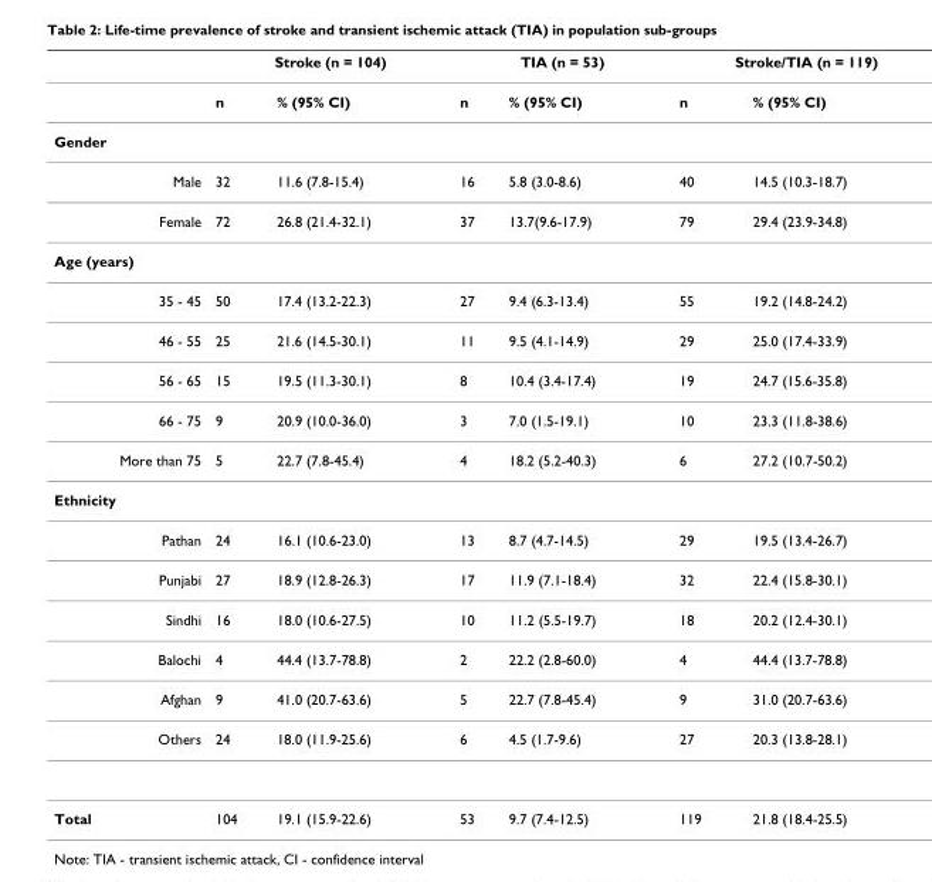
<table><thead><tr><td rowspan="2"></td><td colspan="2">Stroke (n = 104)</td><td colspan="2">TIA (n = 53)</td><td colspan="2">Stroke/TIA (n = 119)</td></tr><tr><td>n</td><td>% (95% CI)</td><td>n</td><td>% (95% CI)</td><td>n</td><td>% (95% CI)</td></tr></thead><tbody><tr><td colspan="7">Gender</td></tr><tr><td>Male</td><td>32</td><td>11.6 (7.8-15.4)</td><td>16</td><td>5.8 (3.0-8.6)</td><td>40</td><td>14.5 (10.3-18.7)</td></tr><tr><td>Female</td><td>72</td><td>26.8 (21.4-32.1)</td><td>37</td><td>13.7(9.6-17.9)</td><td>79</td><td>29.4 (23.9-34.8)</td></tr><tr><td colspan="7">Age (years)</td></tr><tr><td>35 - 45</td><td>50</td><td>17.4 (13.2-22.3)</td><td>27</td><td>9.4 (6.3-13.4)</td><td>55</td><td>19.2 (14.8-24.2)</td></tr><tr><td>46 - 55</td><td>25</td><td>21.6 (14.5-30.1)</td><td>11</td><td>9.5 (4.1-14.9)</td><td>29</td><td>25.0 (17.4-33.9)</td></tr><tr><td>56 - 65</td><td>15</td><td>19.5 (11.3-30.1)</td><td>8</td><td>10.4 (3.4-17.4)</td><td>19</td><td>24.7 (15.6-35.8)</td></tr><tr><td>66 - 75</td><td>9</td><td>20.9 (10.0-36.0)</td><td>3</td><td>7.0 (1.5-19.1)</td><td>10</td><td>23.3 (11.8-38.6)</td></tr><tr><td>More than 75</td><td>5</td><td>22.7 (7.8-45.4)</td><td>4</td><td>18.2 (5.2-40.3)</td><td>6</td><td>27.2 (10.7-50.2)</td></tr><tr><td colspan="7">Ethnicity</td></tr><tr><td>Pathan</td><td>24</td><td>16.1 (10.6-23.0)</td><td>13</td><td>8.7 (4.7-14.5)</td><td>29</td><td>19.5 (13.4-26.7)</td></tr><tr><td>Punjabi</td><td>27</td><td>18.9 (12.8-26.3)</td><td>17</td><td>11.9 (7.1-18.4)</td><td>32</td><td>22.4 (15.8-30.1)</td></tr><tr><td>Sindhi</td><td>16</td><td>18.0 (10.6-27.5)</td><td>10</td><td>11.2 (5.5-19.7)</td><td>18</td><td>20.2 (12.4-30.1)</td></tr><tr><td>Balochi</td><td>4</td><td>44.4 (13.7-78.8)</td><td>2</td><td>22.2 (2.8-60.0)</td><td>4</td><td>44.4 (13.7-78.8)</td></tr><tr><td>Afghan</td><td>9</td><td>41.0 (20.7-63.6)</td><td>5</td><td>22.7 (7.8-45.4)</td><td>9</td><td>31.0 (20.7-63.6)</td></tr><tr><td>Others</td><td>24</td><td>18.0 (11.9-25.6)</td><td>6</td><td>4.5 (1.7-9.6)</td><td>27</td><td>20.3 (13.8-28.1)</td></tr><tr><td>Total</td><td>104</td><td>19.1 (15.9-22.6)</td><td>53</td><td>9.7 (7.4-12.5)</td><td>119</td><td>21.8 (18.4-25.5)</td></tr></tbody></table>